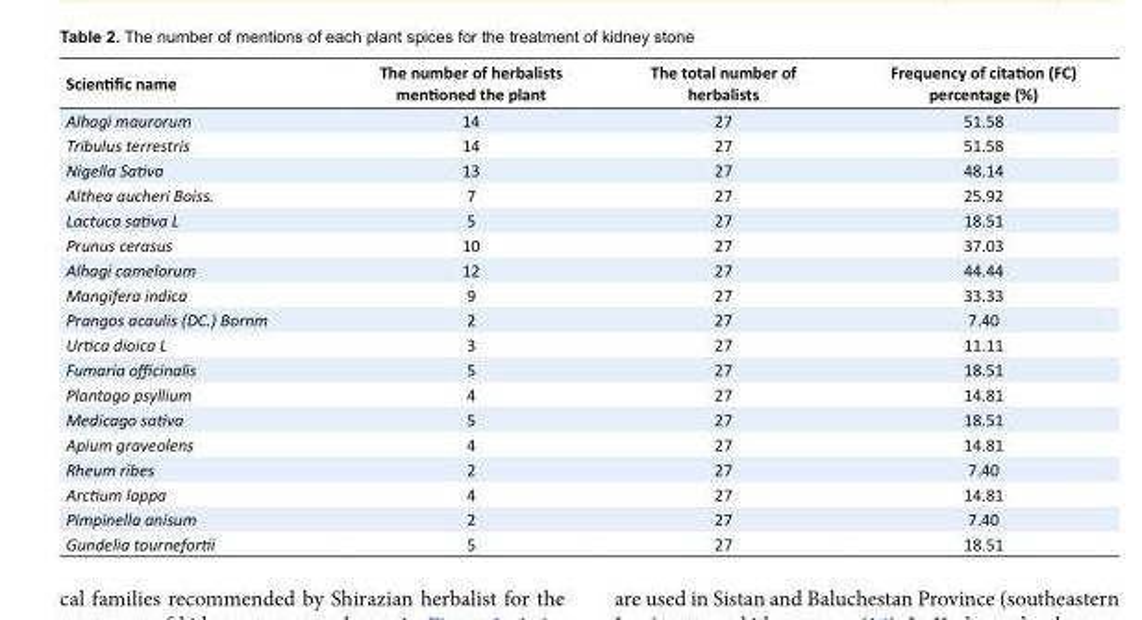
<table><tbody><tr><td>Scientific name</td><td>The number of herbalists mentioned the plant</td><td>The total number of herbalists</td><td>Frequency of citation (FC) percentage (%)</td></tr><tr><td>Alhagi maurorum</td><td>14</td><td>27</td><td>51.58</td></tr><tr><td>Tribulus terrestris</td><td>14</td><td>27</td><td>51.58</td></tr><tr><td>Nigella Sativa</td><td>13</td><td>27</td><td>48.14</td></tr><tr><td>Althea aucheri Boiss.</td><td>7</td><td>27</td><td>25.92</td></tr><tr><td>Lactuca sativa L</td><td>5</td><td>27</td><td>18.51</td></tr><tr><td>Prunus cerasus</td><td>10</td><td>27</td><td>37.03</td></tr><tr><td>Alhagi camelorum</td><td>12</td><td>27</td><td>44.44</td></tr><tr><td>Mangifera indica</td><td>9</td><td>27</td><td>33.33</td></tr><tr><td>Prangos acaulis (DC.) Bornm</td><td>2</td><td>27</td><td>7.40</td></tr><tr><td>Urtica dioica L</td><td>3</td><td>27</td><td>11.11</td></tr><tr><td>Fumaria officinalis</td><td>5</td><td>27</td><td>18.51</td></tr><tr><td>Plantago psyllium</td><td>4</td><td>27</td><td>14.81</td></tr><tr><td>Medicago sativa</td><td>5</td><td>27</td><td>18.51</td></tr><tr><td>Apium graveolens</td><td>4</td><td>27</td><td>14.81</td></tr><tr><td>Rheum ribes</td><td>2</td><td>27</td><td>7.40</td></tr><tr><td>Arctium lappa</td><td>4</td><td>27</td><td>14.81</td></tr><tr><td>Pimpinella anisum</td><td>2</td><td>27</td><td>7.40</td></tr><tr><td>Gundelia tournefortii</td><td>5</td><td>27</td><td>18.51</td></tr></tbody></table>